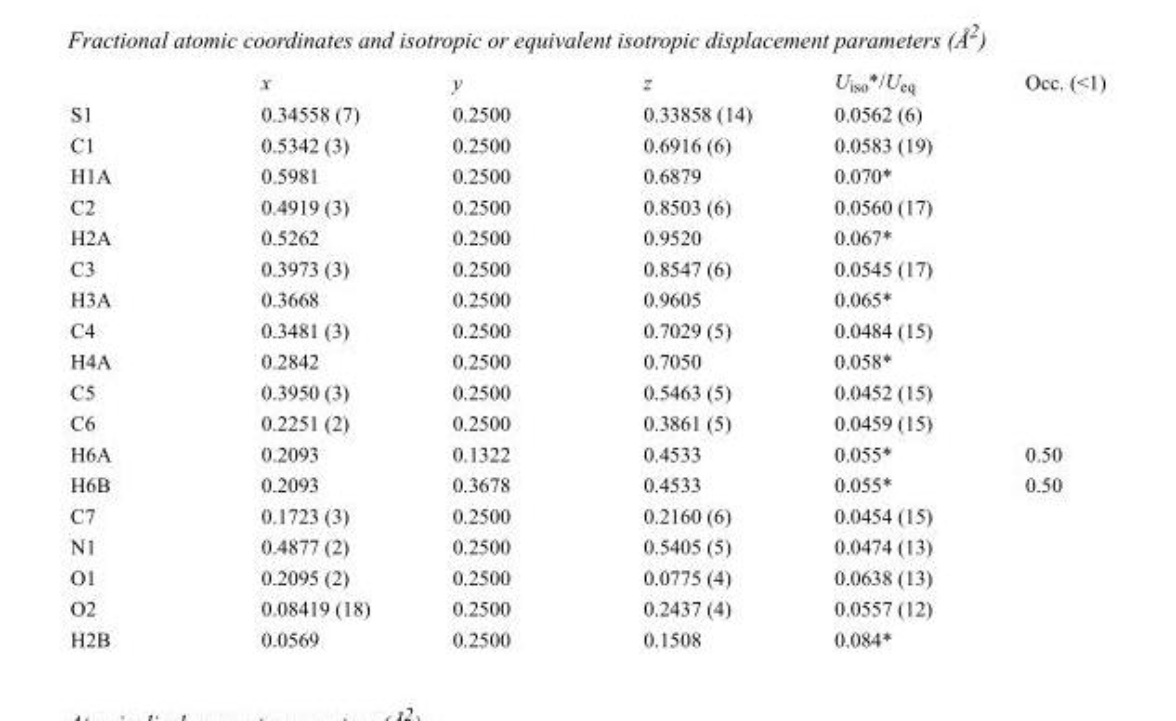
<table><thead><tr><td></td><td>x</td><td>y</td><td>z</td><td>U<sub>iso</sub>*/U<sub>eq</sub></td><td>Occ. (&lt;1)</td></tr></thead><tbody><tr><td>S1</td><td>0.34558 (7)</td><td>0.2500</td><td>0.33858 (14)</td><td>0.0562 (6)</td><td></td></tr><tr><td>C1</td><td>0.5342 (3)</td><td>0.2500</td><td>0.6916 (6)</td><td>0.0583 (19)</td><td></td></tr><tr><td>H1A</td><td>0.5981</td><td>0.2500</td><td>0.6879</td><td>0.070*</td><td></td></tr><tr><td>C2</td><td>0.4919 (3)</td><td>0.2500</td><td>0.8503 (6)</td><td>0.0560 (17)</td><td></td></tr><tr><td>H2A</td><td>0.5262</td><td>0.2500</td><td>0.9520</td><td>0.067*</td><td></td></tr><tr><td>C3</td><td>0.3973 (3)</td><td>0.2500</td><td>0.8547 (6)</td><td>0.0545 (17)</td><td></td></tr><tr><td>H3A</td><td>0.3668</td><td>0.2500</td><td>0.9605</td><td>0.065*</td><td></td></tr><tr><td>C4</td><td>0.3481 (3)</td><td>0.2500</td><td>0.7029 (5)</td><td>0.0484 (15)</td><td></td></tr><tr><td>H4A</td><td>0.2842</td><td>0.2500</td><td>0.7050</td><td>0.058*</td><td></td></tr><tr><td>C5</td><td>0.3950 (3)</td><td>0.2500</td><td>0.5463 (5)</td><td>0.0452 (15)</td><td></td></tr><tr><td>C6</td><td>0.2251 (2)</td><td>0.2500</td><td>0.3861 (5)</td><td>0.0459 (15)</td><td></td></tr><tr><td>H6A</td><td>0.2093</td><td>0.1322</td><td>0.4533</td><td>0.055*</td><td>0.50</td></tr><tr><td>H6B</td><td>0.2093</td><td>0.3678</td><td>0.4533</td><td>0.055*</td><td>0.50</td></tr><tr><td>C7</td><td>0.1723 (3)</td><td>0.2500</td><td>0.2160 (6)</td><td>0.0454 (15)</td><td></td></tr><tr><td>N1</td><td>0.4877 (2)</td><td>0.2500</td><td>0.5405 (5)</td><td>0.0474 (13)</td><td></td></tr><tr><td>O1</td><td>0.2095 (2)</td><td>0.2500</td><td>0.0775 (4)</td><td>0.0638 (13)</td><td></td></tr><tr><td>O2</td><td>0.08419 (18)</td><td>0.2500</td><td>0.2437 (4)</td><td>0.0557 (12)</td><td></td></tr><tr><td>H2B</td><td>0.0569</td><td>0.2500</td><td>0.1508</td><td>0.084*</td><td></td></tr></tbody></table>